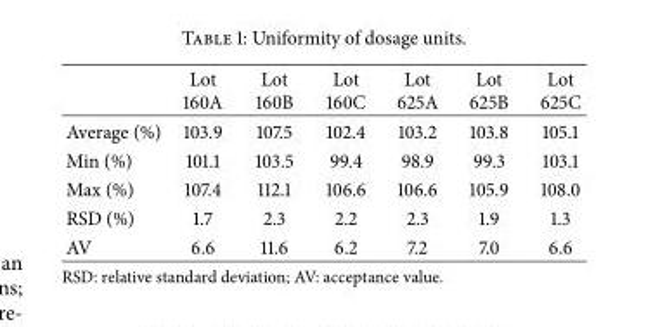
<table><thead><tr><td></td><td>Lot 160A</td><td>Lot 160B</td><td>Lot 160C</td><td>Lot 625A</td><td>Lot 625B</td><td>Lot 625C</td></tr></thead><tbody><tr><td>Average (%)</td><td>103.9</td><td>107.5</td><td>102.4</td><td>103.2</td><td>103.8</td><td>105.1</td></tr><tr><td>Min (%)</td><td>101.1</td><td>103.5</td><td>99.4</td><td>98.9</td><td>99.3</td><td>103.1</td></tr><tr><td>Max (%)</td><td>107.4</td><td>112.1</td><td>106.6</td><td>106.6</td><td>105.9</td><td>108.0</td></tr><tr><td>RSD (%)</td><td>1.7</td><td>2.3</td><td>2.2</td><td>2.3</td><td>1.9</td><td>1.3</td></tr><tr><td>AV</td><td>6.6</td><td>11.6</td><td>6.2</td><td>7.2</td><td>7.0</td><td>6.6</td></tr></tbody></table>